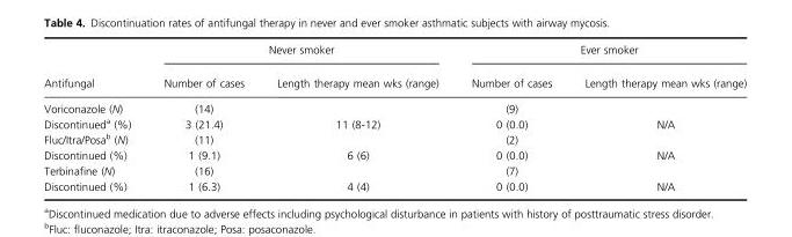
<table><thead><tr><td rowspan="2">Antifungal</td><td colspan="2">Never smoker</td><td colspan="2">Ever smoker</td></tr><tr><td>Number of cases</td><td>Length therapy mean wks (range)</td><td>Number of cases</td><td>Length therapy mean wks (range)</td></tr></thead><tbody><tr><td>Voriconazole (N)</td><td>(14)</td><td></td><td>(9)</td><td></td></tr><tr><td>Discontinued<sup>a</sup> (%)</td><td>3 (21.4)</td><td>11 (8-12)</td><td>0 (0.0)</td><td>N/A</td></tr><tr><td>Fluc/Itra/Posa<sup>b</sup> (N)</td><td>(11)</td><td></td><td>(2)</td><td></td></tr><tr><td>Discontinued (%)</td><td>1 (9.1)</td><td>6 (6)</td><td>0 (0.0)</td><td>N/A</td></tr><tr><td>Terbinafine (N)</td><td>(16)</td><td></td><td>(7)</td><td></td></tr><tr><td>Discontinued (%)</td><td>1 (6.3)</td><td>4 (4)</td><td>0 (0.0)</td><td>N/A</td></tr></tbody></table>